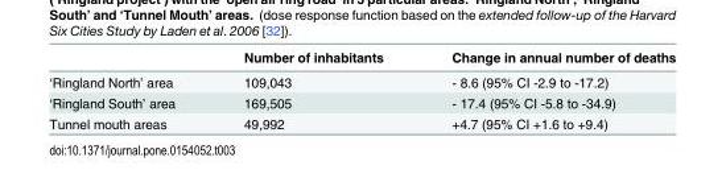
<table><thead><tr><td></td><td>Number of inhabitants</td><td>Change in annual number of deaths</td></tr></thead><tbody><tr><td>‘Ringland North’ area</td><td>109,043</td><td>- 8.6 (95% CI -2.9 to -17.2)</td></tr><tr><td>‘Ringland South’ area</td><td>169,505</td><td>- 17.4 (95% CI -5.8 to -34.9)</td></tr><tr><td>Tunnel mouth areas</td><td>49,992</td><td>+4.7 (95% CI +1.6 to +9.4)</td></tr></tbody></table>